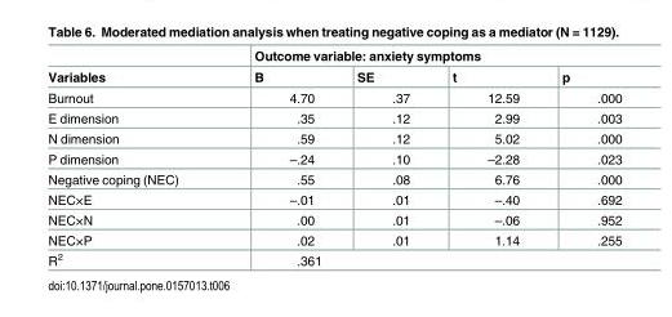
<table><thead><tr><td rowspan="2">Variables</td><td colspan="4">Outcome variable: anxiety symptoms</td></tr><tr><td>B</td><td>SE</td><td>t</td><td>p</td></tr></thead><tbody><tr><td>Burnout</td><td>4.70</td><td>.37</td><td>12.59</td><td>.000</td></tr><tr><td>E dimension</td><td>.35</td><td>.12</td><td>2.99</td><td>.003</td></tr><tr><td>N dimension</td><td>.59</td><td>.12</td><td>5.02</td><td>.000</td></tr><tr><td>P dimension</td><td>–.24</td><td>.10</td><td>–2.28</td><td>.023</td></tr><tr><td>Negative coping (NEC)</td><td>.55</td><td>.08</td><td>6.76</td><td>.000</td></tr><tr><td>NEC×E</td><td>–.01</td><td>.01</td><td>–.40</td><td>.692</td></tr><tr><td>NEC×N</td><td>.00</td><td>.01</td><td>–.06</td><td>.952</td></tr><tr><td>NEC×P</td><td>.02</td><td>.01</td><td>1.14</td><td>.255</td></tr><tr><td>R<sup>2</sup></td><td colspan="4">.361</td></tr></tbody></table>